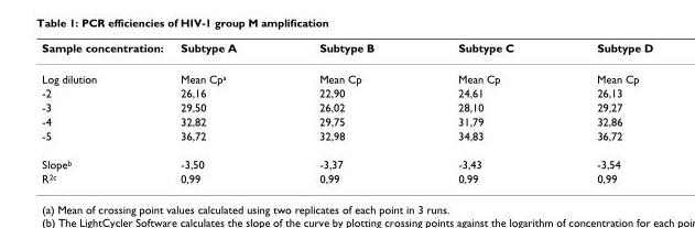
<table><thead><tr><td>Sample concentration:</td><td>Subtype A</td><td>Subtype B</td><td>Subtype C</td><td>Subtype D</td></tr></thead><tbody><tr><td>Log dilution</td><td>Mean Cp<sup>a</sup></td><td>Mean Cp</td><td>Mean Cp</td><td>Mean Cp</td></tr><tr><td>-2</td><td>26,16</td><td>22,90</td><td>24,61</td><td>26,13</td></tr><tr><td>-3</td><td>29,50</td><td>26,02</td><td>28,10</td><td>29,27</td></tr><tr><td>-4</td><td>32,82</td><td>29,75</td><td>31,79</td><td>32,86</td></tr><tr><td>-5</td><td>36,72</td><td>32,98</td><td>34,83</td><td>36,72</td></tr><tr><td>Slope<sup>b</sup></td><td>-3,50</td><td>-3,37</td><td>-3,43</td><td>-3,54</td></tr><tr><td>R<sup>2c</sup></td><td>0,99</td><td>0,99</td><td>0,99</td><td>0,99</td></tr></tbody></table>